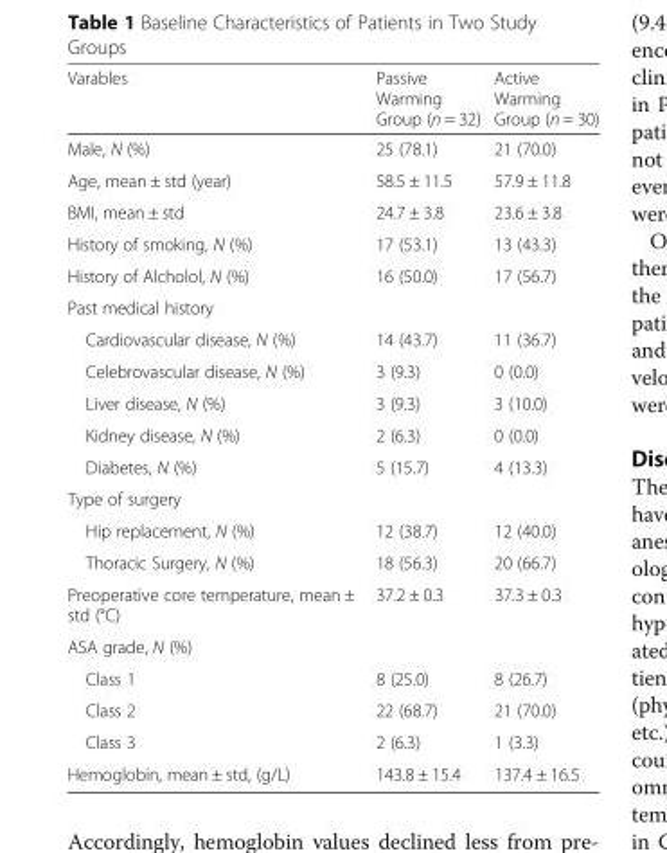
<table><thead><tr><td>Varables</td><td>Passive Warming Group (n = 32)</td><td>Active Warming Group (n = 30)</td></tr></thead><tbody><tr><td>Male, N (%)</td><td>25 (78.1)</td><td>21 (70.0)</td></tr><tr><td>Age, mean ± std (year)</td><td>58.5 ± 11.5</td><td>57.9 ± 11.8</td></tr><tr><td>BMI, mean ± std</td><td>24.7 ± 3.8</td><td>23.6 ± 3.8</td></tr><tr><td>History of smoking, N (%)</td><td>17 (53.1)</td><td>13 (43.3)</td></tr><tr><td>History of Alcholol, N (%)</td><td>16 (50.0)</td><td>17 (56.7)</td></tr><tr><td colspan="3">Past medical history</td></tr><tr><td>Cardiovascular disease, N (%)</td><td>14 (43.7)</td><td>11 (36.7)</td></tr><tr><td>Celebrovascular disease, N (%)</td><td>3 (9.3)</td><td>0 (0.0)</td></tr><tr><td>Liver disease, N (%)</td><td>3 (9.3)</td><td>3 (10.0)</td></tr><tr><td>Kidney disease, N (%)</td><td>2 (6.3)</td><td>0 (0.0)</td></tr><tr><td>Diabetes, N (%)</td><td>5 (15.7)</td><td>4 (13.3)</td></tr><tr><td colspan="3">Type of surgery</td></tr><tr><td>Hip replacement, N (%)</td><td>12 (38.7)</td><td>12 (40.0)</td></tr><tr><td>Thoracic Surgery, N (%)</td><td>18 (56.3)</td><td>20 (66.7)</td></tr><tr><td>Preoperative core temperature, mean ± std (°C)</td><td>37.2 ± 0.3</td><td>37.3 ± 0.3</td></tr><tr><td colspan="3">ASA grade, N (%)</td></tr><tr><td>Class 1</td><td>8 (25.0)</td><td>8 (26.7)</td></tr><tr><td>Class 2</td><td>22 (68.7)</td><td>21 (70.0)</td></tr><tr><td>Class 3</td><td>2 (6.3)</td><td>1 (3.3)</td></tr><tr><td>Hemoglobin, mean ± std, (g/L)</td><td>143.8 ± 15.4</td><td>137.4 ± 16.5</td></tr></tbody></table>